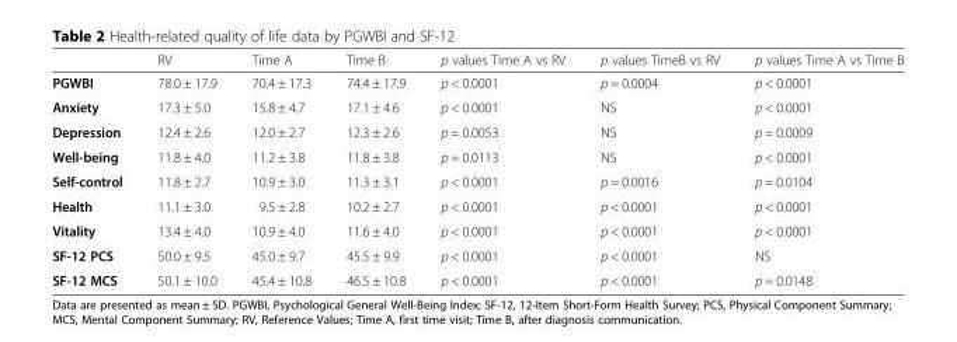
<table><thead><tr><td></td><td>RV</td><td>Time A</td><td>Time B</td><td>p values Time A vs RV</td><td>p values TimeB vs RV</td><td>p values Time A vs Time B</td></tr></thead><tbody><tr><td>PGWBI</td><td>78.0 ± 17.9</td><td>70.4 ± 17.3</td><td>74.4 ± 17.9</td><td>p &lt; 0.0001</td><td>p = 0.0004</td><td>p &lt; 0.0001</td></tr><tr><td>Anxiety</td><td>17.3 ± 5.0</td><td>15.8 ± 4.7</td><td>17.1 ± 4.6</td><td>p &lt; 0.0001</td><td>NS</td><td>p &lt; 0.0001</td></tr><tr><td>Depression</td><td>12.4 ± 2.6</td><td>12.0 ± 2.7</td><td>12.3 ± 2.6</td><td>p = 0.0053</td><td>NS</td><td>p = 0.0009</td></tr><tr><td>Well-being</td><td>11.8 ± 4.0</td><td>11.2 ± 3.8</td><td>11.8 ± 3.8</td><td>p = 0.0113</td><td>NS</td><td>p &lt; 0.0001</td></tr><tr><td>Self-control</td><td>11.8 ± 2.7</td><td>10.9 ± 3.0</td><td>11.3 ± 3.1</td><td>p &lt; 0.0001</td><td>p = 0.0016</td><td>p = 0.0104</td></tr><tr><td>Health</td><td>11.1 ± 3.0</td><td>9.5 ± 2.8</td><td>10.2 ± 2.7</td><td>p &lt; 0.0001</td><td>p &lt; 0.0001</td><td>p &lt; 0.0001</td></tr><tr><td>Vitality</td><td>13.4 ± 4.0</td><td>10.9 ± 4.0</td><td>11.6 ± 4.0</td><td>p &lt; 0.0001</td><td>p &lt; 0.0001</td><td>p &lt; 0.0001</td></tr><tr><td>SF-12 PCS</td><td>50.0 ± 9.5</td><td>45.0 ± 9.7</td><td>45.5 ± 9.9</td><td>p &lt; 0.0001</td><td>p &lt; 0.0001</td><td>NS</td></tr><tr><td>SF-12 MCS</td><td>50.1 ± 10.0</td><td>45.4 ± 10.8</td><td>46.5 ± 10.8</td><td>p &lt; 0.0001</td><td>p &lt; 0.0001</td><td>p = 0.0148</td></tr></tbody></table>